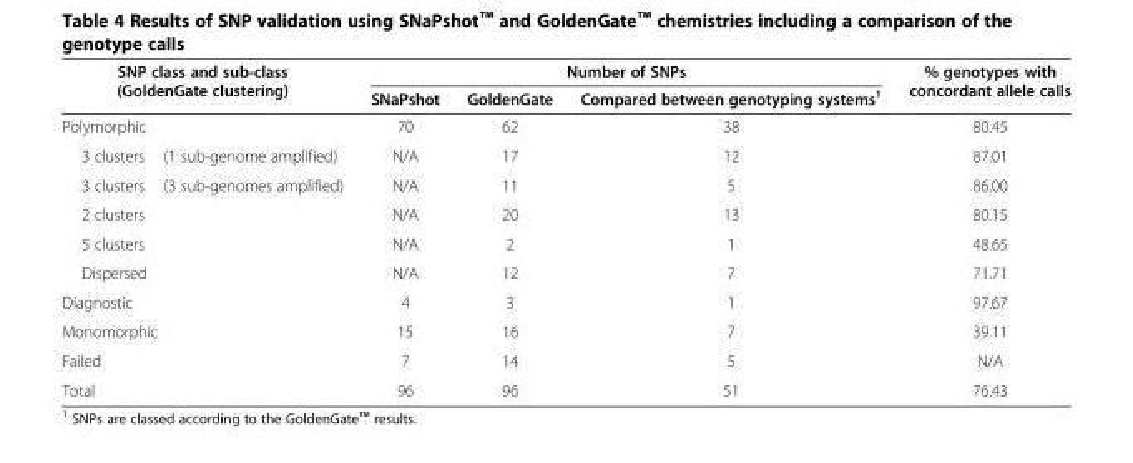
<table><thead><tr><td rowspan="2">SNP class and sub-class (GoldenGate clustering)</td><td colspan="3">Number of SNPs</td><td rowspan="2">% genotypes with concordant allele calls</td></tr><tr><td>SNaPshot</td><td>GoldenGate</td><td>Compared between genotyping systems<sup>1</sup></td></tr></thead><tbody><tr><td>Polymorphic</td><td>70</td><td>62</td><td>38</td><td>80.45</td></tr><tr><td>3 clusters (1 sub-genome amplified)</td><td>N/A</td><td>17</td><td>12</td><td>87.01</td></tr><tr><td>3 clusters (3 sub-genomes amplified)</td><td>N/A</td><td>11</td><td>5</td><td>86.00</td></tr><tr><td>2 clusters</td><td>N/A</td><td>20</td><td>13</td><td>80.15</td></tr><tr><td>5 clusters</td><td>N/A</td><td>2</td><td>1</td><td>48.65</td></tr><tr><td>Dispersed</td><td>N/A</td><td>12</td><td>7</td><td>71.71</td></tr><tr><td>Diagnostic</td><td>4</td><td>3</td><td>1</td><td>97.67</td></tr><tr><td>Monomorphic</td><td>15</td><td>16</td><td>7</td><td>39.11</td></tr><tr><td>Failed</td><td>7</td><td>14</td><td>5</td><td>N/A</td></tr><tr><td>Total</td><td>96</td><td>96</td><td>51</td><td>76.43</td></tr></tbody></table>